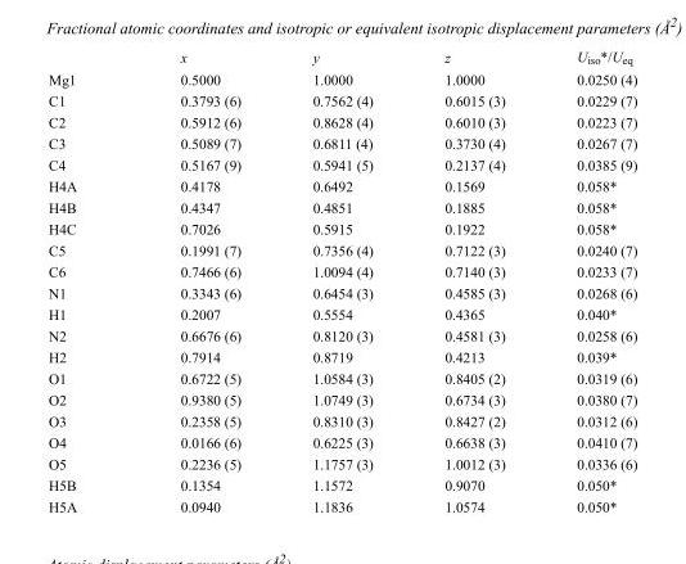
<table><thead><tr><td></td><td>x</td><td>y</td><td>z</td><td>U<sub>iso</sub>*/U<sub>eq</sub></td></tr></thead><tbody><tr><td>Mg1</td><td>0.5000</td><td>1.0000</td><td>1.0000</td><td>0.0250 (4)</td></tr><tr><td>C1</td><td>0.3793 (6)</td><td>0.7562 (4)</td><td>0.6015 (3)</td><td>0.0229 (7)</td></tr><tr><td>C2</td><td>0.5912 (6)</td><td>0.8628 (4)</td><td>0.6010 (3)</td><td>0.0223 (7)</td></tr><tr><td>C3</td><td>0.5089 (7)</td><td>0.6811 (4)</td><td>0.3730 (4)</td><td>0.0267 (7)</td></tr><tr><td>C4</td><td>0.5167 (9)</td><td>0.5941 (5)</td><td>0.2137 (4)</td><td>0.0385 (9)</td></tr><tr><td>H4A</td><td>0.4178</td><td>0.6492</td><td>0.1569</td><td>0.058*</td></tr><tr><td>H4B</td><td>0.4347</td><td>0.4851</td><td>0.1885</td><td>0.058*</td></tr><tr><td>H4C</td><td>0.7026</td><td>0.5915</td><td>0.1922</td><td>0.058*</td></tr><tr><td>C5</td><td>0.1991 (7)</td><td>0.7356 (4)</td><td>0.7122 (3)</td><td>0.0240 (7)</td></tr><tr><td>C6</td><td>0.7466 (6)</td><td>1.0094 (4)</td><td>0.7140 (3)</td><td>0.0233 (7)</td></tr><tr><td>N1</td><td>0.3343 (6)</td><td>0.6454 (3)</td><td>0.4585 (3)</td><td>0.0268 (6)</td></tr><tr><td>H1</td><td>0.2007</td><td>0.5554</td><td>0.4365</td><td>0.040*</td></tr><tr><td>N2</td><td>0.6676 (6)</td><td>0.8120 (3)</td><td>0.4581 (3)</td><td>0.0258 (6)</td></tr><tr><td>H2</td><td>0.7914</td><td>0.8719</td><td>0.4213</td><td>0.039*</td></tr><tr><td>O1</td><td>0.6722 (5)</td><td>1.0584 (3)</td><td>0.8405 (2)</td><td>0.0319 (6)</td></tr><tr><td>O2</td><td>0.9380 (5)</td><td>1.0749 (3)</td><td>0.6734 (3)</td><td>0.0380 (7)</td></tr><tr><td>O3</td><td>0.2358 (5)</td><td>0.8310 (3)</td><td>0.8427 (2)</td><td>0.0312 (6)</td></tr><tr><td>O4</td><td>0.0166 (6)</td><td>0.6225 (3)</td><td>0.6638 (3)</td><td>0.0410 (7)</td></tr><tr><td>O5</td><td>0.2236 (5)</td><td>1.1757 (3)</td><td>1.0012 (3)</td><td>0.0336 (6)</td></tr><tr><td>H5B</td><td>0.1354</td><td>1.1572</td><td>0.9070</td><td>0.050*</td></tr><tr><td>H5A</td><td>0.0940</td><td>1.1836</td><td>1.0574</td><td>0.050*</td></tr></tbody></table>